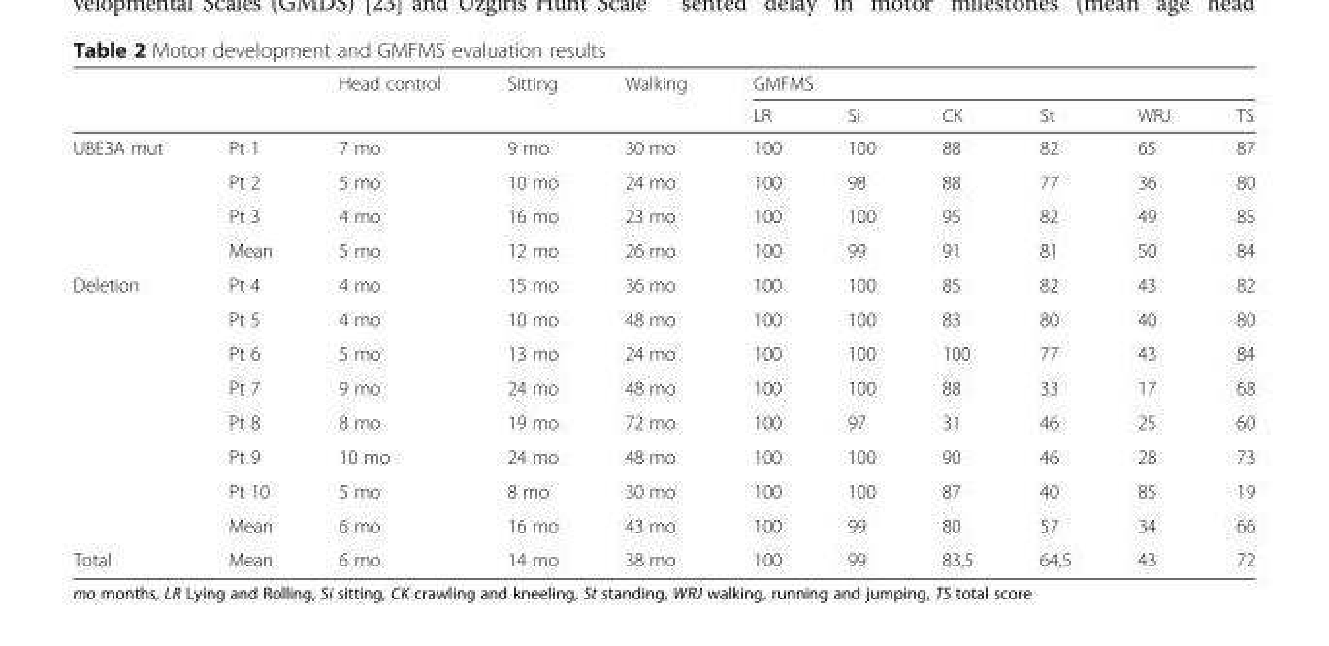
<table><thead><tr><td rowspan="2"></td><td rowspan="2"></td><td rowspan="2">Head control</td><td rowspan="2">Sitting</td><td rowspan="2">Walking</td><td colspan="6">GMFMS</td></tr><tr><td>LR</td><td>Si</td><td>CK</td><td>St</td><td>WRJ</td><td>TS</td></tr></thead><tbody><tr><td rowspan="4">UBE3A mut</td><td>Pt 1</td><td>7 mo</td><td>9 mo</td><td>30 mo</td><td>100</td><td>100</td><td>88</td><td>82</td><td>65</td><td>87</td></tr><tr><td>Pt 2</td><td>5 mo</td><td>10 mo</td><td>24 mo</td><td>100</td><td>98</td><td>88</td><td>77</td><td>36</td><td>80</td></tr><tr><td>Pt 3</td><td>4 mo</td><td>16 mo</td><td>23 mo</td><td>100</td><td>100</td><td>95</td><td>82</td><td>49</td><td>85</td></tr><tr><td>Mean</td><td>5 mo</td><td>12 mo</td><td>26 mo</td><td>100</td><td>99</td><td>91</td><td>81</td><td>50</td><td>84</td></tr><tr><td rowspan="8">Deletion</td><td>Pt 4</td><td>4 mo</td><td>15 mo</td><td>36 mo</td><td>100</td><td>100</td><td>85</td><td>82</td><td>43</td><td>82</td></tr><tr><td>Pt 5</td><td>4 mo</td><td>10 mo</td><td>48 mo</td><td>100</td><td>100</td><td>83</td><td>80</td><td>40</td><td>80</td></tr><tr><td>Pt 6</td><td>5 mo</td><td>13 mo</td><td>24 mo</td><td>100</td><td>100</td><td>100</td><td>77</td><td>43</td><td>84</td></tr><tr><td>Pt 7</td><td>9 mo</td><td>24 mo</td><td>48 mo</td><td>100</td><td>100</td><td>88</td><td>33</td><td>17</td><td>68</td></tr><tr><td>Pt 8</td><td>8 mo</td><td>19 mo</td><td>72 mo</td><td>100</td><td>97</td><td>31</td><td>46</td><td>25</td><td>60</td></tr><tr><td>Pt 9</td><td>10 mo</td><td>24 mo</td><td>48 mo</td><td>100</td><td>100</td><td>90</td><td>46</td><td>28</td><td>73</td></tr><tr><td>Pt 10</td><td>5 mo</td><td>8 mo</td><td>30 mo</td><td>100</td><td>100</td><td>87</td><td>40</td><td>85</td><td>19</td></tr><tr><td>Mean</td><td>6 mo</td><td>16 mo</td><td>43 mo</td><td>100</td><td>99</td><td>80</td><td>57</td><td>34</td><td>66</td></tr><tr><td>Total</td><td>Mean</td><td>6 mo</td><td>14 mo</td><td>38 mo</td><td>100</td><td>99</td><td>83,5</td><td>64,5</td><td>43</td><td>72</td></tr></tbody></table>